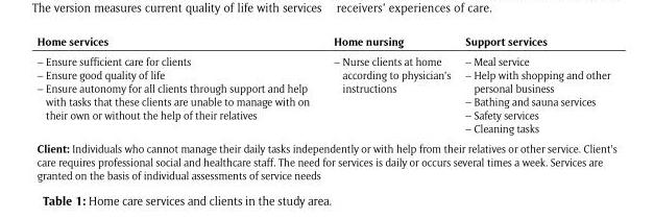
<table><thead><tr><td>Home services</td><td>Home nursing</td><td>Support services</td></tr></thead><tbody><tr><td>– Ensure sufficient care for clients – Ensure good quality of life – Ensure autonomy for all clients through support and help with tasks that these clients are unable to manage with on their own or without the help of their relatives</td><td>– Nurse clients at home according to physician’s instructions</td><td>– Meal service – Help with shopping and other personal business – Bathing and sauna services – Safety services – Cleaning tasks</td></tr><tr><td colspan="3">Client: Individuals who cannot manage their daily tasks independently or with help from their relatives or other service. Client’s care requires professional social and healthcare staff. The need for services is daily or occurs several times a week. Services are granted on the basis of individual assessments of service needs</td></tr></tbody></table>